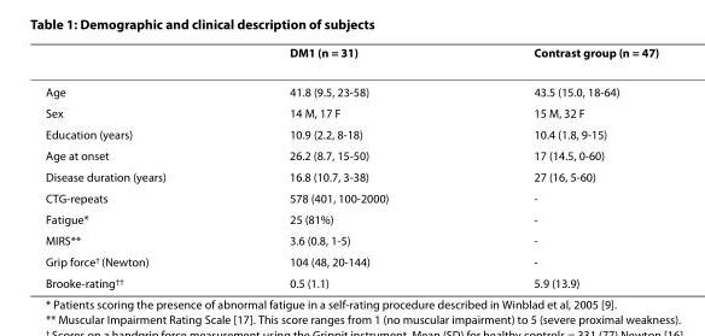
<table><thead><tr><td></td><td>DM1 (n = 31)</td><td>Contrast group (n = 47)</td></tr></thead><tbody><tr><td>Age</td><td>41.8 (9.5, 23-58)</td><td>43.5 (15.0, 18-64)</td></tr><tr><td>Sex</td><td>14 M, 17 F</td><td>15 M, 32 F</td></tr><tr><td>Education (years)</td><td>10.9 (2.2, 8-18)</td><td>10.4 (1.8, 9-15)</td></tr><tr><td>Age at onset</td><td>26.2 (8.7, 15-50)</td><td>17 (14.5, 0-60)</td></tr><tr><td>Disease duration (years)</td><td>16.8 (10.7, 3-38)</td><td>27 (16, 5-60)</td></tr><tr><td>CTG-repeats</td><td>578 (401, 100-2000)</td><td>-</td></tr><tr><td>Fatigue*</td><td>25 (81%)</td><td>-</td></tr><tr><td>MIRS**</td><td>3.6 (0.8, 1-5)</td><td>-</td></tr><tr><td>Grip force<sup>†</sup> (Newton)</td><td>104 (48, 20-144)</td><td>-</td></tr><tr><td>Brooke-rating<sup>††</sup></td><td>0.5 (1.1)</td><td>5.9 (13.9)</td></tr></tbody></table>